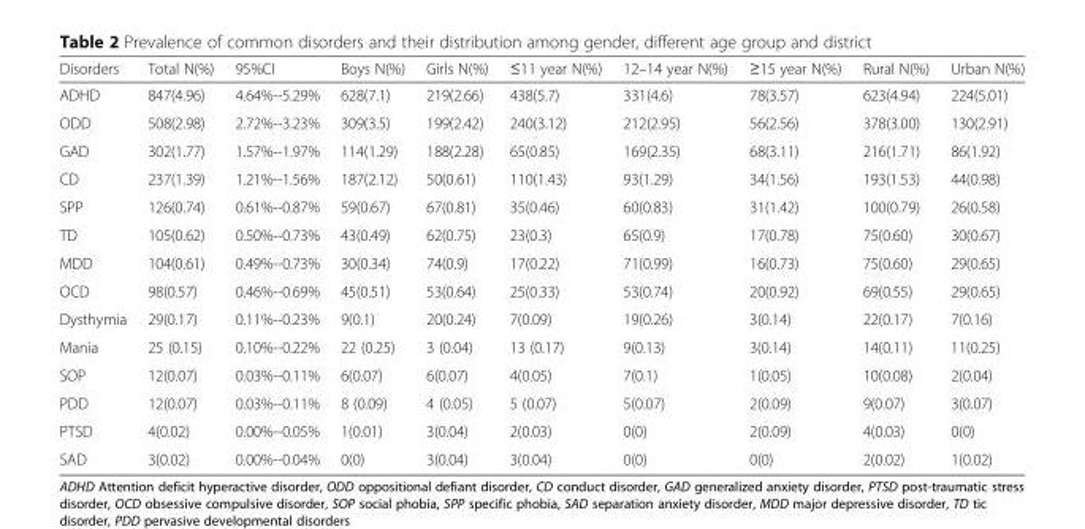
<table><thead><tr><td>Disorders</td><td>Total N(%)</td><td>95%CI</td><td>Boys N(%)</td><td>Girls N(%)</td><td>≤11 year N(%)</td><td>12–14 year N(%)</td><td>≥15 year N(%)</td><td>Rural N(%)</td><td>Urban N(%)</td></tr></thead><tbody><tr><td>ADHD</td><td>847(4.96)</td><td>4.64%--5.29%</td><td>628(7.1)</td><td>219(2.66)</td><td>438(5.7)</td><td>331(4.6)</td><td>78(3.57)</td><td>623(4.94)</td><td>224(5.01)</td></tr><tr><td>ODD</td><td>508(2.98)</td><td>2.72%--3.23%</td><td>309(3.5)</td><td>199(2.42)</td><td>240(3.12)</td><td>212(2.95)</td><td>56(2.56)</td><td>378(3.00)</td><td>130(2.91)</td></tr><tr><td>GAD</td><td>302(1.77)</td><td>1.57%--1.97%</td><td>114(1.29)</td><td>188(2.28)</td><td>65(0.85)</td><td>169(2.35)</td><td>68(3.11)</td><td>216(1.71)</td><td>86(1.92)</td></tr><tr><td>CD</td><td>237(1.39)</td><td>1.21%--1.56%</td><td>187(2.12)</td><td>50(0.61)</td><td>110(1.43)</td><td>93(1.29)</td><td>34(1.56)</td><td>193(1.53)</td><td>44(0.98)</td></tr><tr><td>SPP</td><td>126(0.74)</td><td>0.61%--0.87%</td><td>59(0.67)</td><td>67(0.81)</td><td>35(0.46)</td><td>60(0.83)</td><td>31(1.42)</td><td>100(0.79)</td><td>26(0.58)</td></tr><tr><td>TD</td><td>105(0.62)</td><td>0.50%--0.73%</td><td>43(0.49)</td><td>62(0.75)</td><td>23(0.3)</td><td>65(0.9)</td><td>17(0.78)</td><td>75(0.60)</td><td>30(0.67)</td></tr><tr><td>MDD</td><td>104(0.61)</td><td>0.49%--0.73%</td><td>30(0.34)</td><td>74(0.9)</td><td>17(0.22)</td><td>71(0.99)</td><td>16(0.73)</td><td>75(0.60)</td><td>29(0.65)</td></tr><tr><td>OCD</td><td>98(0.57)</td><td>0.46%--0.69%</td><td>45(0.51)</td><td>53(0.64)</td><td>25(0.33)</td><td>53(0.74)</td><td>20(0.92)</td><td>69(0.55)</td><td>29(0.65)</td></tr><tr><td>Dysthymia</td><td>29(0.17)</td><td>0.11%--0.23%</td><td>9(0.1)</td><td>20(0.24)</td><td>7(0.09)</td><td>19(0.26)</td><td>3(0.14)</td><td>22(0.17)</td><td>7(0.16)</td></tr><tr><td>Mania</td><td>25 (0.15)</td><td>0.10%--0.22%</td><td>22 (0.25)</td><td>3 (0.04)</td><td>13 (0.17)</td><td>9(0.13)</td><td>3(0.14)</td><td>14(0.11)</td><td>11(0.25)</td></tr><tr><td>SOP</td><td>12(0.07)</td><td>0.03%--0.11%</td><td>6(0.07)</td><td>6(0.07)</td><td>4(0.05)</td><td>7(0.1)</td><td>1(0.05)</td><td>10(0.08)</td><td>2(0.04)</td></tr><tr><td>PDD</td><td>12(0.07)</td><td>0.03%--0.11%</td><td>8 (0.09)</td><td>4 (0.05)</td><td>5 (0.07)</td><td>5(0.07)</td><td>2(0.09)</td><td>9(0.07)</td><td>3(0.07)</td></tr><tr><td>PTSD</td><td>4(0.02)</td><td>0.00%--0.05%</td><td>1(0.01)</td><td>3(0.04)</td><td>2(0.03)</td><td>0(0)</td><td>2(0.09)</td><td>4(0.03)</td><td>0(0)</td></tr><tr><td>SAD</td><td>3(0.02)</td><td>0.00%--0.04%</td><td>0(0)</td><td>3(0.04)</td><td>3(0.04)</td><td>0(0)</td><td>0(0)</td><td>2(0.02)</td><td>1(0.02)</td></tr></tbody></table>